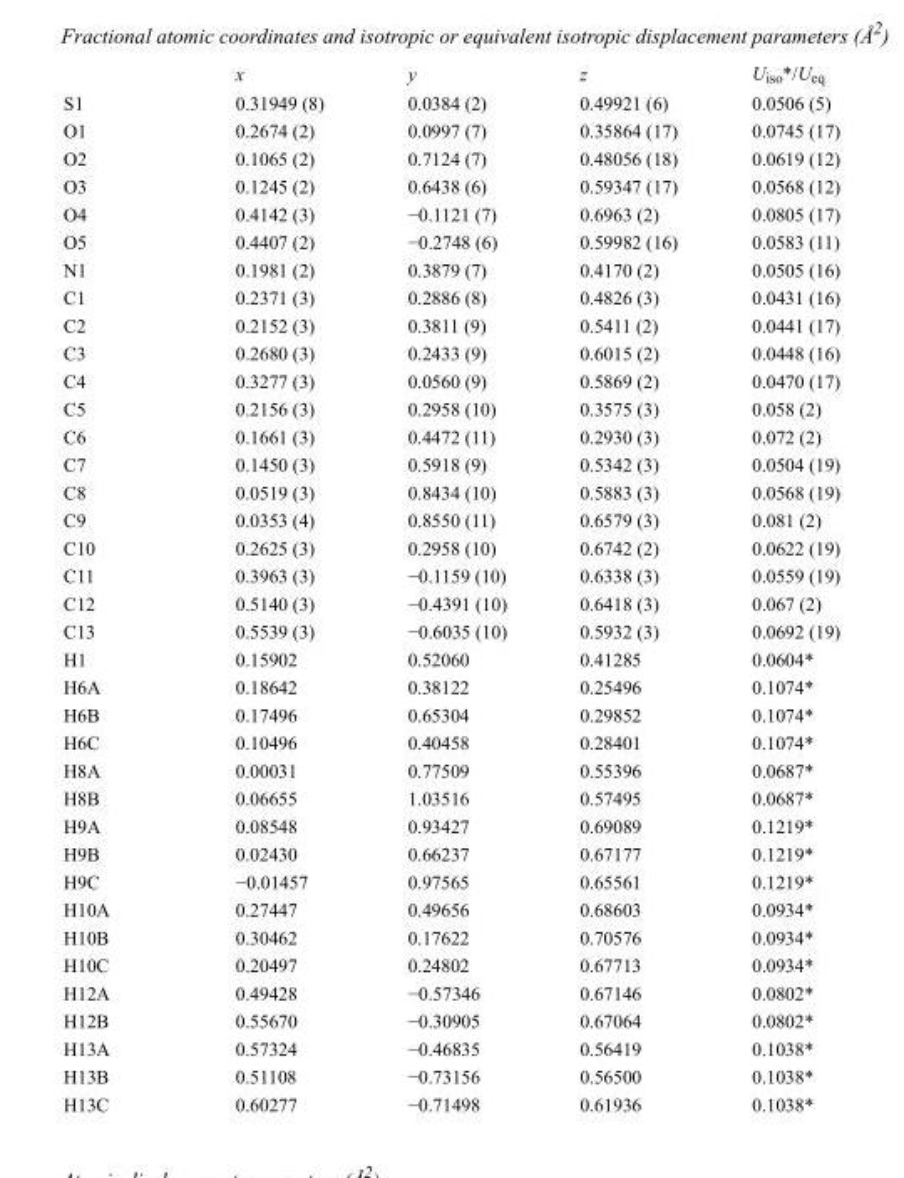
<table><thead><tr><td></td><td>x</td><td>y</td><td>z</td><td>U<sub>iso</sub>*/U<sub>eq</sub></td></tr></thead><tbody><tr><td>S1</td><td>0.31949 (8)</td><td>0.0384 (2)</td><td>0.49921 (6)</td><td>0.0506 (5)</td></tr><tr><td>O1</td><td>0.2674 (2)</td><td>0.0997 (7)</td><td>0.35864 (17)</td><td>0.0745 (17)</td></tr><tr><td>O2</td><td>0.1065 (2)</td><td>0.7124 (7)</td><td>0.48056 (18)</td><td>0.0619 (12)</td></tr><tr><td>O3</td><td>0.1245 (2)</td><td>0.6438 (6)</td><td>0.59347 (17)</td><td>0.0568 (12)</td></tr><tr><td>O4</td><td>0.4142 (3)</td><td>−0.1121 (7)</td><td>0.6963 (2)</td><td>0.0805 (17)</td></tr><tr><td>O5</td><td>0.4407 (2)</td><td>−0.2748 (6)</td><td>0.59982 (16)</td><td>0.0583 (11)</td></tr><tr><td>N1</td><td>0.1981 (2)</td><td>0.3879 (7)</td><td>0.4170 (2)</td><td>0.0505 (16)</td></tr><tr><td>C1</td><td>0.2371 (3)</td><td>0.2886 (8)</td><td>0.4826 (3)</td><td>0.0431 (16)</td></tr><tr><td>C2</td><td>0.2152 (3)</td><td>0.3811 (9)</td><td>0.5411 (2)</td><td>0.0441 (17)</td></tr><tr><td>C3</td><td>0.2680 (3)</td><td>0.2433 (9)</td><td>0.6015 (2)</td><td>0.0448 (16)</td></tr><tr><td>C4</td><td>0.3277 (3)</td><td>0.0560 (9)</td><td>0.5869 (2)</td><td>0.0470 (17)</td></tr><tr><td>C5</td><td>0.2156 (3)</td><td>0.2958 (10)</td><td>0.3575 (3)</td><td>0.058 (2)</td></tr><tr><td>C6</td><td>0.1661 (3)</td><td>0.4472 (11)</td><td>0.2930 (3)</td><td>0.072 (2)</td></tr><tr><td>C7</td><td>0.1450 (3)</td><td>0.5918 (9)</td><td>0.5342 (3)</td><td>0.0504 (19)</td></tr><tr><td>C8</td><td>0.0519 (3)</td><td>0.8434 (10)</td><td>0.5883 (3)</td><td>0.0568 (19)</td></tr><tr><td>C9</td><td>0.0353 (4)</td><td>0.8550 (11)</td><td>0.6579 (3)</td><td>0.081 (2)</td></tr><tr><td>C10</td><td>0.2625 (3)</td><td>0.2958 (10)</td><td>0.6742 (2)</td><td>0.0622 (19)</td></tr><tr><td>C11</td><td>0.3963 (3)</td><td>−0.1159 (10)</td><td>0.6338 (3)</td><td>0.0559 (19)</td></tr><tr><td>C12</td><td>0.5140 (3)</td><td>−0.4391 (10)</td><td>0.6418 (3)</td><td>0.067 (2)</td></tr><tr><td>C13</td><td>0.5539 (3)</td><td>−0.6035 (10)</td><td>0.5932 (3)</td><td>0.0692 (19)</td></tr><tr><td>H1</td><td>0.15902</td><td>0.52060</td><td>0.41285</td><td>0.0604*</td></tr><tr><td>H6A</td><td>0.18642</td><td>0.38122</td><td>0.25496</td><td>0.1074*</td></tr><tr><td>H6B</td><td>0.17496</td><td>0.65304</td><td>0.29852</td><td>0.1074*</td></tr><tr><td>H6C</td><td>0.10496</td><td>0.40458</td><td>0.28401</td><td>0.1074*</td></tr><tr><td>H8A</td><td>0.00031</td><td>0.77509</td><td>0.55396</td><td>0.0687*</td></tr><tr><td>H8B</td><td>0.06655</td><td>1.03516</td><td>0.57495</td><td>0.0687*</td></tr><tr><td>H9A</td><td>0.08548</td><td>0.93427</td><td>0.69089</td><td>0.1219*</td></tr><tr><td>H9B</td><td>0.02430</td><td>0.66237</td><td>0.67177</td><td>0.1219*</td></tr><tr><td>H9C</td><td>−0.01457</td><td>0.97565</td><td>0.65561</td><td>0.1219*</td></tr><tr><td>H10A</td><td>0.27447</td><td>0.49656</td><td>0.68603</td><td>0.0934*</td></tr><tr><td>H10B</td><td>0.30462</td><td>0.17622</td><td>0.70576</td><td>0.0934*</td></tr><tr><td>H10C</td><td>0.20497</td><td>0.24802</td><td>0.67713</td><td>0.0934*</td></tr><tr><td>H12A</td><td>0.49428</td><td>−0.57346</td><td>0.67146</td><td>0.0802*</td></tr><tr><td>H12B</td><td>0.55670</td><td>−0.30905</td><td>0.67064</td><td>0.0802*</td></tr><tr><td>H13A</td><td>0.57324</td><td>−0.46835</td><td>0.56419</td><td>0.1038*</td></tr><tr><td>H13B</td><td>0.51108</td><td>−0.73156</td><td>0.56500</td><td>0.1038*</td></tr><tr><td>H13C</td><td>0.60277</td><td>−0.71498</td><td>0.61936</td><td>0.1038*</td></tr></tbody></table>